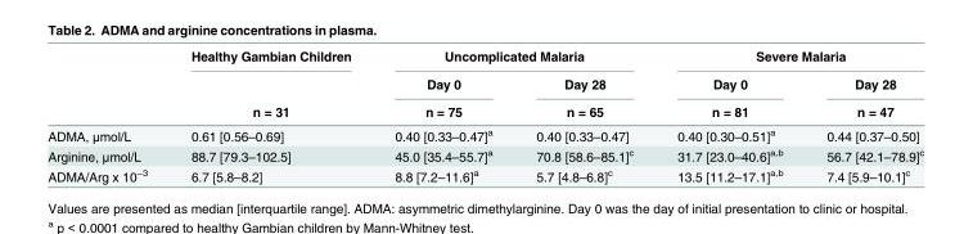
<table><thead><tr><td rowspan="3"></td><td rowspan="3">Healthy Gambian Children n = 31</td><td colspan="2">Uncomplicated Malaria</td><td colspan="2">Severe Malaria</td></tr><tr><td rowspan="2">Day 0 n = 75</td><td rowspan="2">Day 28 n = 65</td><td rowspan="2">Day 0 n = 81</td><td rowspan="2">Day 28 n = 47</td></tr><tr></tr></thead><tbody><tr><td>ADMA, μmol/L</td><td>0.61 [0.56–0.69]</td><td>0.40 [0.33–0.47]<sup>a</sup></td><td>0.40 [0.33–0.47]</td><td>0.40 [0.30–0.51]<sup>a</sup></td><td>0.44 [0.37–0.50]</td></tr><tr><td>Arginine, μmol/L</td><td>88.7 [79.3–102.5]</td><td>45.0 [35.4–55.7]<sup>a</sup></td><td>70.8 [58.6–85.1]<sup>c</sup></td><td>31.7 [23.0–40.6]<sup>a,b</sup></td><td>56.7 [42.1–78.9]<sup>c</sup></td></tr><tr><td>ADMA/Arg x 10<sup>−3</sup></td><td>6.7 [5.8–8.2]</td><td>8.8 [7.2–11.6]<sup>a</sup></td><td>5.7 [4.8–6.8]<sup>c</sup></td><td>13.5 [11.2–17.1]<sup>a,b</sup></td><td>7.4 [5.9–10.1]<sup>c</sup></td></tr></tbody></table>